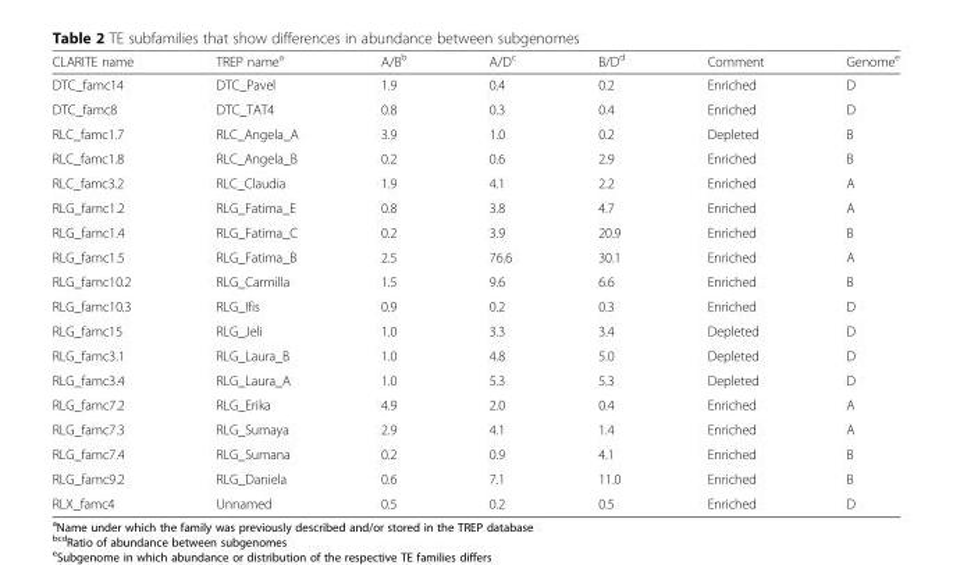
<table><thead><tr><td>CLARITE name</td><td>TREP name<sup>a</sup></td><td>A/B<sup>b</sup></td><td>A/D<sup>c</sup></td><td>B/D<sup>d</sup></td><td>Comment</td><td>Genome<sup>e</sup></td></tr></thead><tbody><tr><td>DTC_famc14</td><td>DTC_Pavel</td><td>1.9</td><td>0.4</td><td>0.2</td><td>Enriched</td><td>D</td></tr><tr><td>DTC_famc8</td><td>DTC_TAT4</td><td>0.8</td><td>0.3</td><td>0.4</td><td>Enriched</td><td>D</td></tr><tr><td>RLC_famc1.7</td><td>RLC_Angela_A</td><td>3.9</td><td>1.0</td><td>0.2</td><td>Depleted</td><td>B</td></tr><tr><td>RLC_famc1.8</td><td>RLC_Angela_B</td><td>0.2</td><td>0.6</td><td>2.9</td><td>Enriched</td><td>B</td></tr><tr><td>RLC_famc3.2</td><td>RLC_Claudia</td><td>1.9</td><td>4.1</td><td>2.2</td><td>Enriched</td><td>A</td></tr><tr><td>RLG_famc1.2</td><td>RLG_Fatima_E</td><td>0.8</td><td>3.8</td><td>4.7</td><td>Enriched</td><td>A</td></tr><tr><td>RLG_famc1.4</td><td>RLG_Fatima_C</td><td>0.2</td><td>3.9</td><td>20.9</td><td>Enriched</td><td>B</td></tr><tr><td>RLG_famc1.5</td><td>RLG_Fatima_B</td><td>2.5</td><td>76.6</td><td>30.1</td><td>Enriched</td><td>A</td></tr><tr><td>RLG_famc10.2</td><td>RLG_Carmilla</td><td>1.5</td><td>9.6</td><td>6.6</td><td>Enriched</td><td>B</td></tr><tr><td>RLG_famc10.3</td><td>RLG_Ifis</td><td>0.9</td><td>0.2</td><td>0.3</td><td>Enriched</td><td>D</td></tr><tr><td>RLG_famc15</td><td>RLG_Jeli</td><td>1.0</td><td>3.3</td><td>3.4</td><td>Depleted</td><td>D</td></tr><tr><td>RLG_famc3.1</td><td>RLG_Laura_B</td><td>1.0</td><td>4.8</td><td>5.0</td><td>Depleted</td><td>D</td></tr><tr><td>RLG_famc3.4</td><td>RLG_Laura_A</td><td>1.0</td><td>5.3</td><td>5.3</td><td>Depleted</td><td>D</td></tr><tr><td>RLG_famc7.2</td><td>RLG_Erika</td><td>4.9</td><td>2.0</td><td>0.4</td><td>Enriched</td><td>A</td></tr><tr><td>RLG_famc7.3</td><td>RLG_Sumaya</td><td>2.9</td><td>4.1</td><td>1.4</td><td>Enriched</td><td>A</td></tr><tr><td>RLG_famc7.4</td><td>RLG_Sumana</td><td>0.2</td><td>0.9</td><td>4.1</td><td>Enriched</td><td>B</td></tr><tr><td>RLG_famc9.2</td><td>RLG_Daniela</td><td>0.6</td><td>7.1</td><td>11.0</td><td>Enriched</td><td>B</td></tr><tr><td>RLX_famc4</td><td>Unnamed</td><td>0.5</td><td>0.2</td><td>0.5</td><td>Enriched</td><td>D</td></tr></tbody></table>